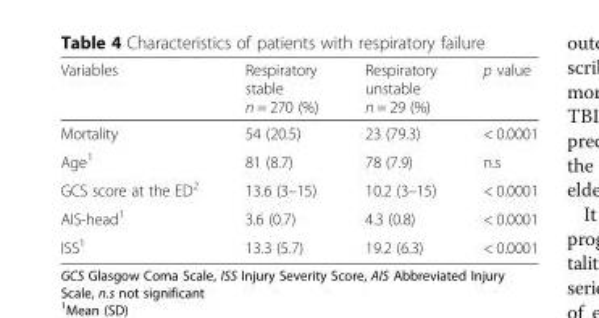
<table><thead><tr><td>Variables</td><td>Respiratory stable n = 270 (%)</td><td>Respiratory unstable n = 29 (%)</td><td>p value</td></tr></thead><tbody><tr><td>Mortality</td><td>54 (20.5)</td><td>23 (79.3)</td><td>&lt; 0.0001</td></tr><tr><td>Age<sup>1</sup></td><td>81 (8.7)</td><td>78 (7.9)</td><td>n.s</td></tr><tr><td>GCS score at the ED<sup>2</sup></td><td>13.6 (3–15)</td><td>10.2 (3–15)</td><td>&lt; 0.0001</td></tr><tr><td>AIS-head<sup>1</sup></td><td>3.6 (0.7)</td><td>4.3 (0.8)</td><td>&lt; 0.0001</td></tr><tr><td>ISS<sup>1</sup></td><td>13.3 (5.7)</td><td>19.2 (6.3)</td><td>&lt; 0.0001</td></tr></tbody></table>